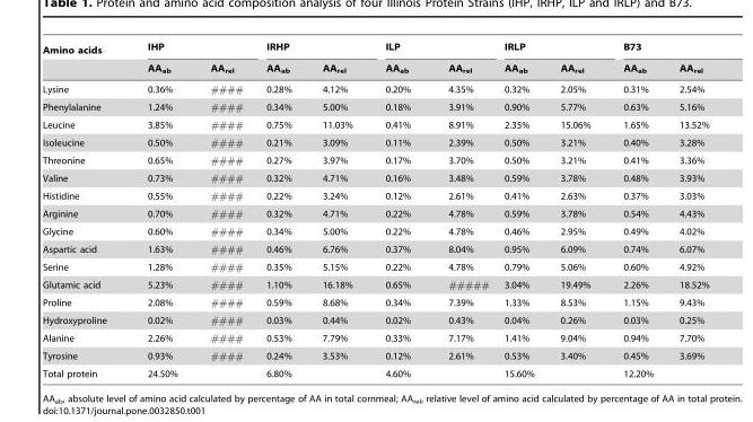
<table><thead><tr><td rowspan="2">Amino acids</td><td colspan="2">IHP</td><td colspan="2">IRHP</td><td colspan="2">ILP</td><td colspan="2">IRLP</td><td colspan="2">B73</td></tr><tr><td>AA<sub>ab</sub></td><td>AA<sub>rel</sub></td><td>AA<sub>ab</sub></td><td>AA<sub>rel</sub></td><td>AA<sub>ab</sub></td><td>AA<sub>rel</sub></td><td>AA<sub>ab</sub></td><td>AA<sub>rel</sub></td><td>AA<sub>ab</sub></td><td>AA<sub>rel</sub></td></tr></thead><tbody><tr><td>Lysine</td><td>0.36%</td><td>####</td><td>0.28%</td><td>4.12%</td><td>0.20%</td><td>4.35%</td><td>0.32%</td><td>2.05%</td><td>0.31%</td><td>2.54%</td></tr><tr><td>Phenylalanine</td><td>1.24%</td><td>####</td><td>0.34%</td><td>5.00%</td><td>0.18%</td><td>3.91%</td><td>0.90%</td><td>5.77%</td><td>0.63%</td><td>5.16%</td></tr><tr><td>Leucine</td><td>3.85%</td><td>####</td><td>0.75%</td><td>11.03%</td><td>0.41%</td><td>8.91%</td><td>2.35%</td><td>15.06%</td><td>1.65%</td><td>13.52%</td></tr><tr><td>Isoleucine</td><td>0.50%</td><td>####</td><td>0.21%</td><td>3.09%</td><td>0.11%</td><td>2.39%</td><td>0.50%</td><td>3.21%</td><td>0.40%</td><td>3.28%</td></tr><tr><td>Threonine</td><td>0.65%</td><td>####</td><td>0.27%</td><td>3.97%</td><td>0.17%</td><td>3.70%</td><td>0.50%</td><td>3.21%</td><td>0.41%</td><td>3.36%</td></tr><tr><td>Valine</td><td>0.73%</td><td>####</td><td>0.32%</td><td>4.71%</td><td>0.16%</td><td>3.48%</td><td>0.59%</td><td>3.78%</td><td>0.48%</td><td>3.93%</td></tr><tr><td>Histidine</td><td>0.55%</td><td>####</td><td>0.22%</td><td>3.24%</td><td>0.12%</td><td>2.61%</td><td>0.41%</td><td>2.63%</td><td>0.37%</td><td>3.03%</td></tr><tr><td>Arginine</td><td>0.70%</td><td>####</td><td>0.32%</td><td>4.71%</td><td>0.22%</td><td>4.78%</td><td>0.59%</td><td>3.78%</td><td>0.54%</td><td>4.43%</td></tr><tr><td>Glycine</td><td>0.60%</td><td>####</td><td>0.34%</td><td>5.00%</td><td>0.22%</td><td>4.78%</td><td>0.46%</td><td>2.95%</td><td>0.49%</td><td>4.02%</td></tr><tr><td>Aspartic acid</td><td>1.63%</td><td>####</td><td>0.46%</td><td>6.76%</td><td>0.37%</td><td>8.04%</td><td>0.95%</td><td>6.09%</td><td>0.74%</td><td>6.07%</td></tr><tr><td>Serine</td><td>1.28%</td><td>####</td><td>0.35%</td><td>5.15%</td><td>0.22%</td><td>4.78%</td><td>0.79%</td><td>5.06%</td><td>0.60%</td><td>4.92%</td></tr><tr><td>Glutamic acid</td><td>5.23%</td><td>####</td><td>1.10%</td><td>16.18%</td><td>0.65%</td><td>#####</td><td>3.04%</td><td>19.49%</td><td>2.26%</td><td>18.52%</td></tr><tr><td>Proline</td><td>2.08%</td><td>####</td><td>0.59%</td><td>8.68%</td><td>0.34%</td><td>7.39%</td><td>1.33%</td><td>8.53%</td><td>1.15%</td><td>9.43%</td></tr><tr><td>Hydroxyproline</td><td>0.02%</td><td>####</td><td>0.03%</td><td>0.44%</td><td>0.02%</td><td>0.43%</td><td>0.04%</td><td>0.26%</td><td>0.03%</td><td>0.25%</td></tr><tr><td>Alanine</td><td>2.26%</td><td>####</td><td>0.53%</td><td>7.79%</td><td>0.33%</td><td>7.17%</td><td>1.41%</td><td>9.04%</td><td>0.94%</td><td>7.70%</td></tr><tr><td>Tyrosine</td><td>0.93%</td><td>####</td><td>0.24%</td><td>3.53%</td><td>0.12%</td><td>2.61%</td><td>0.53%</td><td>3.40%</td><td>0.45%</td><td>3.69%</td></tr><tr><td>Total protein</td><td colspan="2">24.50%</td><td colspan="2">6.80%</td><td colspan="2">4.60%</td><td colspan="2">15.60%</td><td colspan="2">12.20%</td></tr></tbody></table>